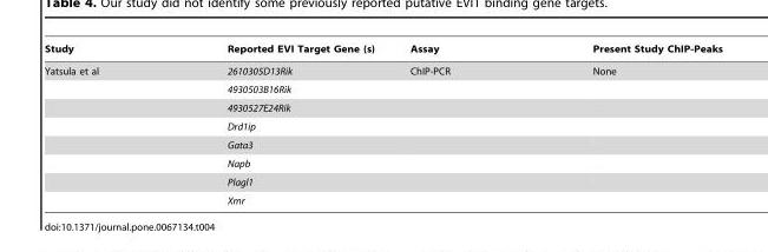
<table><thead><tr><td>Study</td><td>Reported EVI Target Gene (s)</td><td>Assay</td><td>Present Study ChIP-Peaks</td></tr></thead><tbody><tr><td rowspan="8">Yatsula et al</td><td>2610305D13Rik</td><td>ChIP-PCR</td><td>None</td></tr><tr><td>4930503B16Rik</td><td></td><td></td></tr><tr><td>4930527E24Rik</td><td></td><td></td></tr><tr><td>Drd1ip</td><td></td><td></td></tr><tr><td>Gata3</td><td></td><td></td></tr><tr><td>Napb</td><td></td><td></td></tr><tr><td>Plagl1</td><td></td><td></td></tr><tr><td>Xmr</td><td></td><td></td></tr></tbody></table>